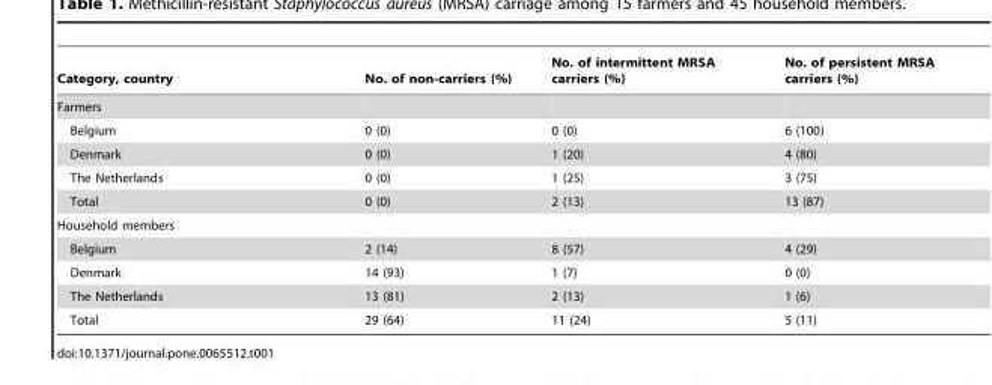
<table><thead><tr><td>Category, country</td><td>No. of non-carriers (%)</td><td>No. of intermittent MRSA carriers (%)</td><td>No. of persistent MRSA carriers (%)</td></tr></thead><tbody><tr><td colspan="4">Farmers</td></tr><tr><td>Belgium</td><td>0 (0)</td><td>0 (0)</td><td>6 (100)</td></tr><tr><td>Denmark</td><td>0 (0)</td><td>1 (20)</td><td>4 (80)</td></tr><tr><td>The Netherlands</td><td>0 (0)</td><td>1 (25)</td><td>3 (75)</td></tr><tr><td>Total</td><td>0 (0)</td><td>2 (13)</td><td>13 (87)</td></tr><tr><td colspan="4">Household members</td></tr><tr><td>Belgium</td><td>2 (14)</td><td>8 (57)</td><td>4 (29)</td></tr><tr><td>Denmark</td><td>14 (93)</td><td>1 (7)</td><td>0 (0)</td></tr><tr><td>The Netherlands</td><td>13 (81)</td><td>2 (13)</td><td>1 (6)</td></tr><tr><td>Total</td><td>29 (64)</td><td>11 (24)</td><td>5 (11)</td></tr></tbody></table>